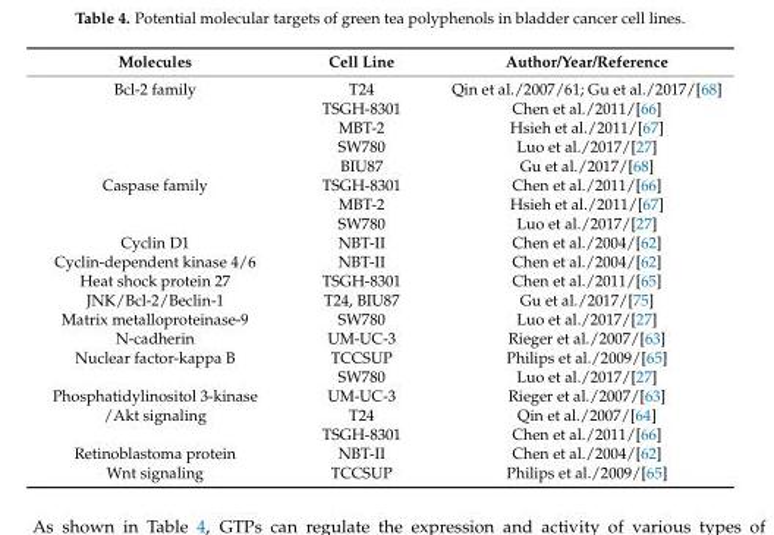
<table><thead><tr><td>Molecules</td><td>Cell Line</td><td>Author/Year/Reference</td></tr></thead><tbody><tr><td rowspan="5">Bcl-2 family</td><td>T24</td><td>Qin et al./2007/61; Gu et al./2017/[68]</td></tr><tr><td>TSGH-8301</td><td>Chen et al./2011/[66]</td></tr><tr><td>MBT-2</td><td>Hsieh et al./2011/[67]</td></tr><tr><td>SW780</td><td>Luo et al./2017/[27]</td></tr><tr><td>BIU87</td><td>Gu et al./2017/[68]</td></tr><tr><td rowspan="3">Caspase family</td><td>TSGH-8301</td><td>Chen et al./2011/[66]</td></tr><tr><td>MBT-2</td><td>Hsieh et al./2011/[67]</td></tr><tr><td>SW780</td><td>Luo et al./2017/[27]</td></tr><tr><td>Cyclin D1</td><td>NBT-II</td><td>Chen et al./2004/[62]</td></tr><tr><td>Cyclin-dependent kinase 4/6</td><td>NBT-II</td><td>Chen et al./2004/[62]</td></tr><tr><td>Heat shock protein 27</td><td>TSGH-8301</td><td>Chen et al./2011/[65]</td></tr><tr><td>JNK/Bcl-2/Beclin-1</td><td>T24, BIU87</td><td>Gu et al./2017/[75]</td></tr><tr><td>Matrix metalloproteinase-9</td><td>SW780</td><td>Luo et al./2017/[27]</td></tr><tr><td>N-cadherin</td><td>UM-UC-3</td><td>Rieger et al./2007/[63]</td></tr><tr><td rowspan="2">Nuclear factor-kappa B</td><td>TCCSUP</td><td>Philips et al./2009/[65]</td></tr><tr><td>SW780</td><td>Luo et al./2017/[27]</td></tr><tr><td>Phosphatidylinositol 3-kinase</td><td>UM-UC-3</td><td>Rieger et al./2007/[63]</td></tr><tr><td rowspan="2">/Akt signaling</td><td>T24</td><td>Qin et al./2007/[64]</td></tr><tr><td>TSGH-8301</td><td>Chen et al./2011/[66]</td></tr><tr><td>Retinoblastoma protein</td><td>NBT-II</td><td>Chen et al./2004/[62]</td></tr><tr><td>Wnt signaling</td><td>TCCSUP</td><td>Philips et al./2009/[65]</td></tr></tbody></table>